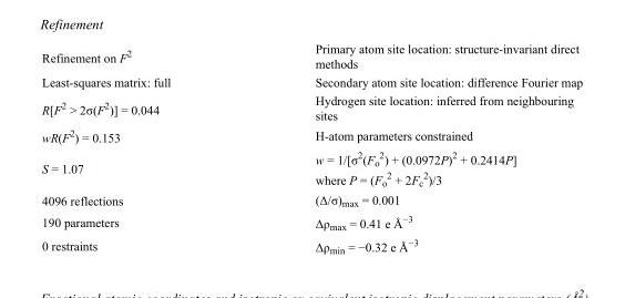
<table><tbody><tr><td>Refinement on F<sup>2</sup></td><td>Primary atom site location: structure-invariant direct methods</td></tr><tr><td>Least-squares matrix: full</td><td>Secondary atom site location: difference Fourier map</td></tr><tr><td>R[F<sup>2</sup> &gt; 2σ(F<sup>2</sup>)] = 0.044</td><td>Hydrogen site location: inferred from neighbouring sites</td></tr><tr><td>wR(F<sup>2</sup>) = 0.153</td><td>H-atom parameters constrained</td></tr><tr><td>S = 1.07</td><td>w = 1/[σ<sup>2</sup>(F<sub>o</sub> <sup>2</sup>) + (0.0972P)<sup>2</sup> + 0.2414P] where P = (F<sub>o</sub> <sup>2</sup> + 2F<sub>c</sub> <sup>2</sup>)/3</td></tr><tr><td>4096 reflections</td><td>(Δ/σ)<sub>max</sub> = 0.001</td></tr><tr><td>190 parameters</td><td>Δρ<sub>max</sub> = 0.41 e Å<sup>−3</sup></td></tr><tr><td>0 restraints</td><td>Δρ<sub>min</sub> = −0.32 e Å<sup>−3</sup></td></tr></tbody></table>